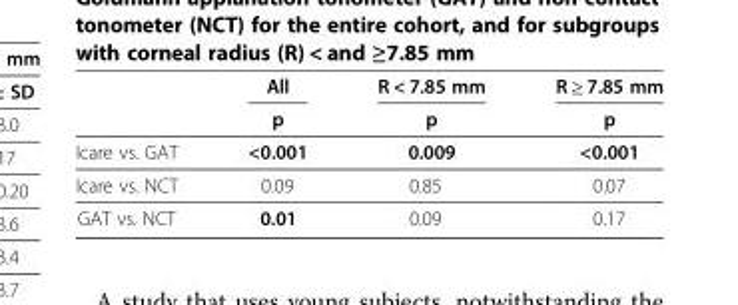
<table><thead><tr><td rowspan="2"></td><td rowspan="2">All p</td><td rowspan="2">R &lt; 7.85 mm p</td><td rowspan="2">R ≥ 7.85 mm p</td></tr><tr></tr></thead><tbody><tr><td>Icare vs. GAT</td><td>&lt;0.001</td><td>0.009</td><td>&lt;0.001</td></tr><tr><td>Icare vs. NCT</td><td>0.09</td><td>0.85</td><td>0.07</td></tr><tr><td>GAT vs. NCT</td><td>0.01</td><td>0.09</td><td>0.17</td></tr></tbody></table>